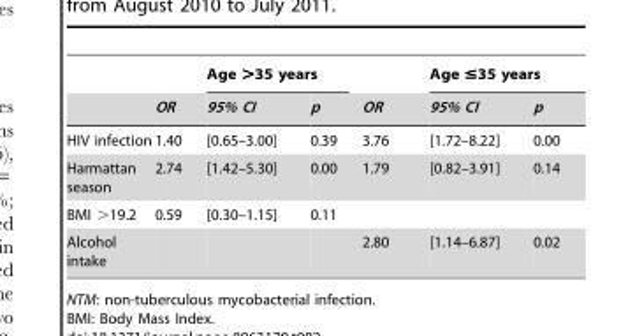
<table><thead><tr><td rowspan="2"></td><td rowspan="2">OR</td><td colspan="2">Age &gt;35 years</td><td rowspan="2">OR</td><td colspan="2">Age ≤35 years</td></tr><tr><td>95% CI</td><td>p</td><td>95% CI</td><td>p</td></tr></thead><tbody><tr><td>HIV infection</td><td>1.40</td><td>[0.65–3.00]</td><td>0.39</td><td>3.76</td><td>[1.72–8.22]</td><td>0.00</td></tr><tr><td>Harmattan season</td><td>2.74</td><td>[1.42–5.30]</td><td>0.00</td><td>1.79</td><td>[0.82–3.91]</td><td>0.14</td></tr><tr><td>BMI &gt;19.2</td><td>0.59</td><td>[0.30–1.15]</td><td>0.11</td><td></td><td></td><td></td></tr><tr><td>Alcohol intake</td><td></td><td></td><td></td><td>2.80</td><td>[1.14–6.87]</td><td>0.02</td></tr></tbody></table>